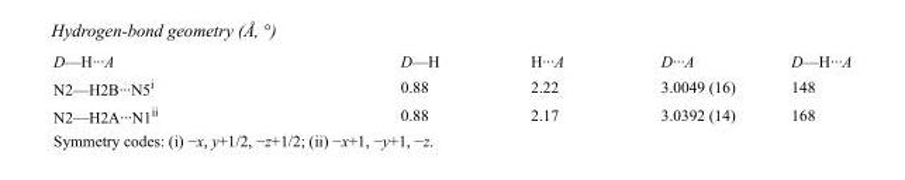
<table><tbody><tr><td>D—H···A</td><td>D—H</td><td>H···A</td><td>D···A</td><td>D—H···A</td></tr><tr><td>N2—H2B···N5<sup>i</sup></td><td>0.88</td><td>2.22</td><td>3.0049 (16)</td><td>148</td></tr><tr><td>N2—H2A···N1<sup>ii</sup></td><td>0.88</td><td>2.17</td><td>3.0392 (14)</td><td>168</td></tr></tbody></table>